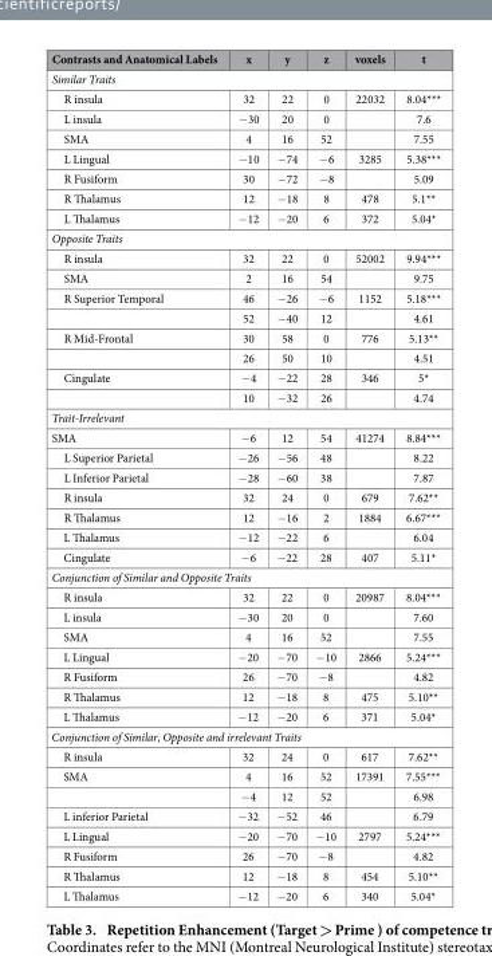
<table><thead><tr><td>Contrasts and Anatomical Labels</td><td>x</td><td>y</td><td>z</td><td>voxels</td><td>t</td></tr></thead><tbody><tr><td colspan="6">Similar Traits</td></tr><tr><td>R insula</td><td>32</td><td>22</td><td>0</td><td>22032</td><td>8.04***</td></tr><tr><td>L insula</td><td>− 30</td><td>20</td><td>0</td><td></td><td>7.6</td></tr><tr><td>SMA</td><td>4</td><td>16</td><td>52</td><td></td><td>7.55</td></tr><tr><td>L Lingual</td><td>− 10</td><td>− 74</td><td>− 6</td><td>3285</td><td>5.38***</td></tr><tr><td>R Fusiform</td><td>30</td><td>− 72</td><td>− 8</td><td></td><td>5.09</td></tr><tr><td>R Thalamus</td><td>12</td><td>− 18</td><td>8</td><td>478</td><td>5.1**</td></tr><tr><td>L Thalamus</td><td>− 12</td><td>− 20</td><td>6</td><td>372</td><td>5.04*</td></tr><tr><td colspan="6">Opposite Traits</td></tr><tr><td>R insula</td><td>32</td><td>22</td><td>0</td><td>52002</td><td>9.94***</td></tr><tr><td>SMA</td><td>2</td><td>16</td><td>54</td><td></td><td>9.75</td></tr><tr><td rowspan="2">R Superior Temporal</td><td>46</td><td>− 26</td><td>− 6</td><td>1152</td><td>5.18***</td></tr><tr><td>52</td><td>− 40</td><td>12</td><td></td><td>4.61</td></tr><tr><td rowspan="2">R Mid-Frontal</td><td>30</td><td>58</td><td>0</td><td>776</td><td>5.13**</td></tr><tr><td>26</td><td>50</td><td>10</td><td></td><td>4.51</td></tr><tr><td rowspan="2">Cingulate</td><td>− 4</td><td>− 22</td><td>28</td><td>346</td><td>5*</td></tr><tr><td>10</td><td>− 32</td><td>26</td><td></td><td>4.74</td></tr><tr><td colspan="6">Trait-Irrelevant</td></tr><tr><td>SMA</td><td>− 6</td><td>12</td><td>54</td><td>41274</td><td>8.84***</td></tr><tr><td>L Superior Parietal</td><td>− 26</td><td>− 56</td><td>48</td><td></td><td>8.22</td></tr><tr><td>L Inferior Parietal</td><td>− 28</td><td>− 60</td><td>38</td><td></td><td>7.87</td></tr><tr><td>R insula</td><td>32</td><td>24</td><td>0</td><td>679</td><td>7.62**</td></tr><tr><td>R Thalamus</td><td>12</td><td>− 16</td><td>2</td><td>1884</td><td>6.67***</td></tr><tr><td>L Thalamus</td><td>− 12</td><td>− 22</td><td>6</td><td></td><td>6.04</td></tr><tr><td>Cingulate</td><td>− 6</td><td>− 22</td><td>28</td><td>407</td><td>5.11*</td></tr><tr><td colspan="6">Conjunction of Similar and Opposite Traits</td></tr><tr><td>R insula</td><td>32</td><td>22</td><td>0</td><td>20987</td><td>8.04***</td></tr><tr><td>L insula</td><td>− 30</td><td>20</td><td>0</td><td></td><td>7.60</td></tr><tr><td>SMA</td><td>4</td><td>16</td><td>52</td><td></td><td>7.55</td></tr><tr><td>L Lingual</td><td>− 20</td><td>− 70</td><td>− 10</td><td>2866</td><td>5.24***</td></tr><tr><td>R Fusiform</td><td>26</td><td>− 70</td><td>− 8</td><td></td><td>4.82</td></tr><tr><td>R Thalamus</td><td>12</td><td>− 18</td><td>8</td><td>475</td><td>5.10**</td></tr><tr><td>L Thalamus</td><td>− 12</td><td>− 20</td><td>6</td><td>371</td><td>5.04*</td></tr><tr><td colspan="6">Conjunction of Similar, Opposite and irrelevant Traits</td></tr><tr><td>R insula</td><td>32</td><td>24</td><td>0</td><td>617</td><td>7.62**</td></tr><tr><td rowspan="2">SMA</td><td>4</td><td>16</td><td>52</td><td>17391</td><td>7.55***</td></tr><tr><td>− 4</td><td>12</td><td>52</td><td></td><td>6.98</td></tr><tr><td>L inferior Parietal</td><td>− 32</td><td>− 52</td><td>46</td><td></td><td>6.79</td></tr><tr><td>L Lingual</td><td>− 20</td><td>− 70</td><td>− 10</td><td>2797</td><td>5.24***</td></tr><tr><td>R Fusiform</td><td>26</td><td>− 70</td><td>− 8</td><td></td><td>4.82</td></tr><tr><td>R Thalamus</td><td>12</td><td>− 18</td><td>8</td><td>454</td><td>5.10**</td></tr><tr><td>L Thalamus</td><td>− 12</td><td>− 20</td><td>6</td><td>340</td><td>5.04*</td></tr></tbody></table>